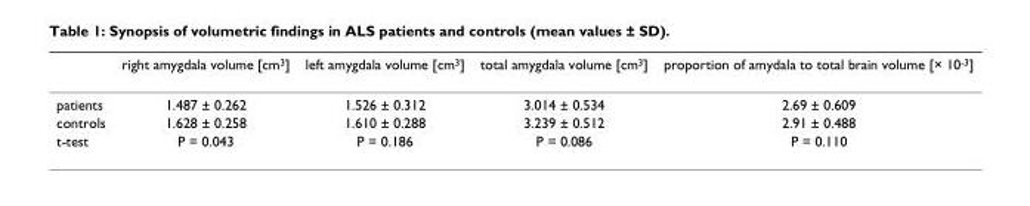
<table><thead><tr><td></td><td>right amygdala volume [cm3]</td><td>left amygdala volume [cm3]</td><td>total amygdala volume [cm3]</td><td>proportion of amydala to total brain volume [× 10-3]</td></tr></thead><tbody><tr><td>patients</td><td>1.487 ± 0.262</td><td>1.526 ± 0.312</td><td>3.014 ± 0.534</td><td>2.69 ± 0.609</td></tr><tr><td>controls</td><td>1.628 ± 0.258</td><td>1.610 ± 0.288</td><td>3.239 ± 0.512</td><td>2.91 ± 0.488</td></tr><tr><td>t-test</td><td>P = 0.043</td><td>P = 0.186</td><td>P = 0.086</td><td>P = 0.110</td></tr></tbody></table>